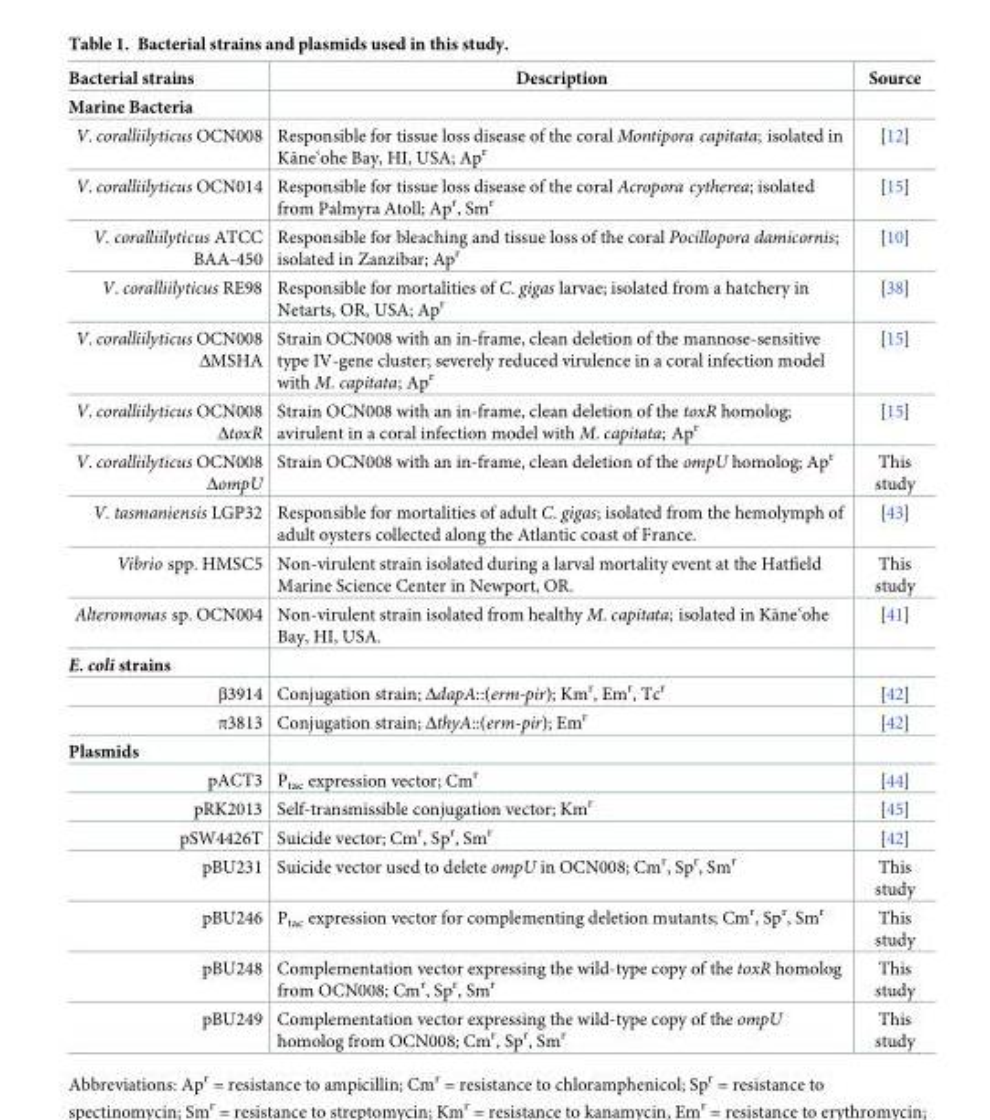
<table><thead><tr><td rowspan="2">Bacterial strains Marine Bacteria</td><td rowspan="2">Description</td><td rowspan="2">Source</td></tr><tr></tr></thead><tbody><tr><td>V. coralliilyticus OCN008</td><td>Responsible for tissue loss disease of the coral Montipora capitata; isolated in Kāne‘ohe Bay, HI, USA; Apr</td><td>[12]</td></tr><tr><td>V. coralliilyticus OCN014</td><td>Responsible for tissue loss disease of the coral Acropora cytherea; isolated from Palmyra Atoll; Ap<sup>r</sup>, Sm<sup>r</sup></td><td>[15]</td></tr><tr><td>V. coralliilyticus ATCC BAA-450</td><td>Responsible for bleaching and tissue loss of the coral Pocillopora damicornis; isolated in Zanzibar; Ap<sup>r</sup></td><td>[10]</td></tr><tr><td>V. coralliilyticus RE98</td><td>Responsible for mortalities of C. gigas larvae; isolated from a hatchery in Netarts, OR, USA; Ap<sup>r</sup></td><td>[38]</td></tr><tr><td>V. coralliilyticus OCN008 ΔMSHA</td><td>Strain OCN008 with an in-frame, clean deletion of the mannose-sensitive type IV-gene cluster; severely reduced virulence in a coral infection model with M. capitata; Ap<sup>r</sup></td><td>[15]</td></tr><tr><td>V. coralliilyticus OCN008 ΔtoxR</td><td>Strain OCN008 with an in-frame, clean deletion of the toxR homolog; avirulent in a coral infection model with M. capitata; Ap<sup>r</sup></td><td>[15]</td></tr><tr><td>V. coralliilyticus OCN008 ΔompU</td><td>Strain OCN008 with an in-frame, clean deletion of the ompU homolog; Ap<sup>r</sup></td><td>This study</td></tr><tr><td>V. tasmaniensis LGP32</td><td>Responsible for mortalities of adult C. gigas; isolated from the hemolymph of adult oysters collected along the Atlantic coast of France.</td><td>[43]</td></tr><tr><td>Vibrio spp. HMSC5</td><td>Non-virulent strain isolated during a larval mortality event at the Hatfield Marine Science Center in Newport, OR.</td><td>This study</td></tr><tr><td>Alteromonas sp. OCN004</td><td>Non-virulent strain isolated from healthy M. capitata; isolated in Kāne‘ohe Bay, HI, USA.</td><td>[41]</td></tr><tr><td colspan="3">E. coli strains</td></tr><tr><td>β3914</td><td>Conjugation strain; ΔdapA::(erm-pir); Km<sup>r</sup>, Em<sup>r</sup>, Tc<sup>r</sup></td><td>[42]</td></tr><tr><td>π3813</td><td>Conjugation strain; ΔthyA::(erm-pir); Em<sup>r</sup></td><td>[42]</td></tr><tr><td colspan="3">Plasmids</td></tr><tr><td>pACT3</td><td>P<sub>tac</sub> expression vector; Cm<sup>r</sup></td><td>[44]</td></tr><tr><td>pRK2013</td><td>Self-transmissible conjugation vector; Km<sup>r</sup></td><td>[45]</td></tr><tr><td>pSW4426T</td><td>Suicide vector; Cm<sup>r</sup>, Sp<sup>r</sup>, Sm<sup>r</sup></td><td>[42]</td></tr><tr><td>pBU231</td><td>Suicide vector used to delete ompU in OCN008; Cm<sup>r</sup>, Sp<sup>r</sup>, Sm<sup>r</sup></td><td>This study</td></tr><tr><td>pBU246</td><td>P<sub>tac</sub> expression vector for complementing deletion mutants; Cm<sup>r</sup>, Sp<sup>r</sup>, Sm<sup>r</sup></td><td>This study</td></tr><tr><td>pBU248</td><td>Complementation vector expressing the wild-type copy of the toxR homolog from OCN008; Cm<sup>r</sup>, Sp<sup>r</sup>, Sm<sup>r</sup></td><td>This study</td></tr><tr><td>pBU249</td><td>Complementation vector expressing the wild-type copy of the ompU homolog from OCN008; Cm<sup>r</sup>, Sp<sup>r</sup>, Sm<sup>r</sup></td><td>This study</td></tr></tbody></table>